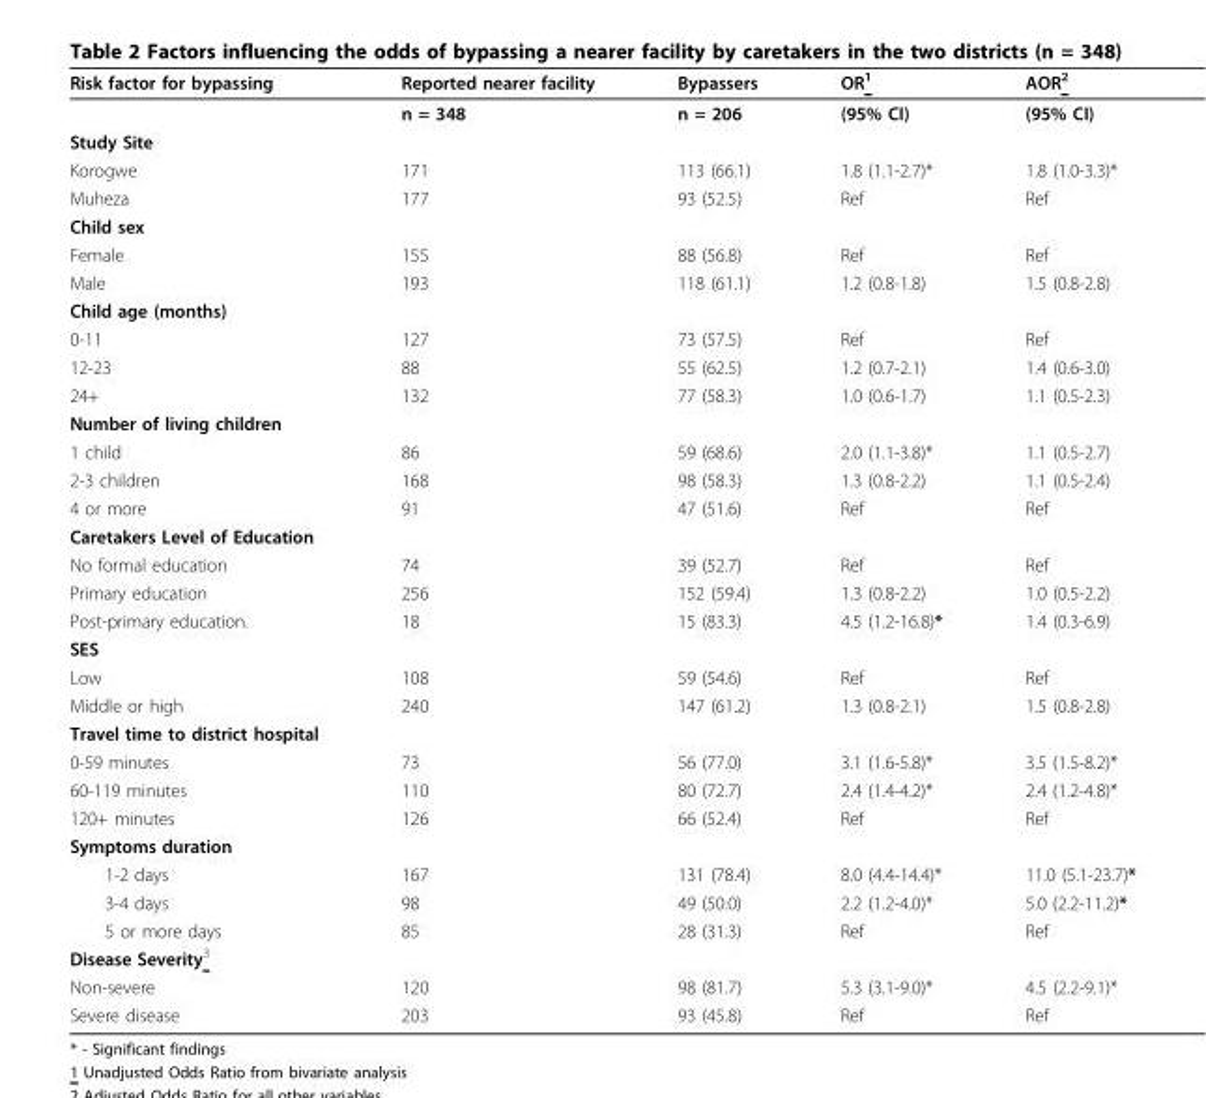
<table><thead><tr><td>Risk factor for bypassing</td><td>Reported nearer facility</td><td>Bypassers</td><td>OR<sup>1</sup></td><td>AOR<sup>2</sup></td></tr></thead><tbody><tr><td></td><td>n = 348</td><td>n = 206</td><td>(95% CI)</td><td>(95% CI)</td></tr><tr><td colspan="5">Study Site</td></tr><tr><td>Korogwe</td><td>171</td><td>113 (66.1)</td><td>1.8 (1.1-2.7)*</td><td>1.8 (1.0-3.3)*</td></tr><tr><td>Muheza</td><td>177</td><td>93 (52.5)</td><td>Ref</td><td>Ref</td></tr><tr><td colspan="5">Child sex</td></tr><tr><td>Female</td><td>155</td><td>88 (56.8)</td><td>Ref</td><td>Ref</td></tr><tr><td>Male</td><td>193</td><td>118 (61.1)</td><td>1.2 (0.8-1.8)</td><td>1.5 (0.8-2.8)</td></tr><tr><td colspan="5">Child age (months)</td></tr><tr><td>0-11</td><td>127</td><td>73 (57.5)</td><td>Ref</td><td>Ref</td></tr><tr><td>12-23</td><td>88</td><td>55 (62.5)</td><td>1.2 (0.7-2.1)</td><td>1.4 (0.6-3.0)</td></tr><tr><td>24+</td><td>132</td><td>77 (58.3)</td><td>1.0 (0.6-1.7)</td><td>1.1 (0.5-2.3)</td></tr><tr><td colspan="5">Number of living children</td></tr><tr><td>1 child</td><td>86</td><td>59 (68.6)</td><td>2.0 (1.1-3.8)*</td><td>1.1 (0.5-2.7)</td></tr><tr><td>2-3 children</td><td>168</td><td>98 (58.3)</td><td>1.3 (0.8-2.2)</td><td>1.1 (0.5-2.4)</td></tr><tr><td>4 or more</td><td>91</td><td>47 (51.6)</td><td>Ref</td><td>Ref</td></tr><tr><td colspan="5">Caretakers Level of Education</td></tr><tr><td>No formal education</td><td>74</td><td>39 (52.7)</td><td>Ref</td><td>Ref</td></tr><tr><td>Primary education</td><td>256</td><td>152 (59.4)</td><td>1.3 (0.8-2.2)</td><td>1.0 (0.5-2.2)</td></tr><tr><td>Post-primary education.</td><td>18</td><td>15 (83.3)</td><td>4.5 (1.2-16.8)*</td><td>1.4 (0.3-6.9)</td></tr><tr><td colspan="5">SES</td></tr><tr><td>Low</td><td>108</td><td>59 (54.6)</td><td>Ref</td><td>Ref</td></tr><tr><td>Middle or high</td><td>240</td><td>147 (61.2)</td><td>1.3 (0.8-2.1)</td><td>1.5 (0.8-2.8)</td></tr><tr><td colspan="5">Travel time to district hospital</td></tr><tr><td>0-59 minutes</td><td>73</td><td>56 (77.0)</td><td>3.1 (1.6-5.8)*</td><td>3.5 (1.5-8.2)*</td></tr><tr><td>60-119 minutes</td><td>110</td><td>80 (72.7)</td><td>2.4 (1.4-4.2)*</td><td>2.4 (1.2-4.8)*</td></tr><tr><td>120+ minutes</td><td>126</td><td>66 (52.4)</td><td>Ref</td><td>Ref</td></tr><tr><td colspan="5">Symptoms duration</td></tr><tr><td>1-2 days</td><td>167</td><td>131 (78.4)</td><td>8.0 (4.4-14.4)*</td><td>11.0 (5.1-23.7)*</td></tr><tr><td>3-4 days</td><td>98</td><td>49 (50.0)</td><td>2.2 (1.2-4.0)*</td><td>5.0 (2.2-11.2)*</td></tr><tr><td>5 or more days</td><td>85</td><td>28 (31.3)</td><td>Ref</td><td>Ref</td></tr><tr><td colspan="5">Disease Severity<sup>3</sup></td></tr><tr><td>Non-severe</td><td>120</td><td>98 (81.7)</td><td>5.3 (3.1-9.0)*</td><td>4.5 (2.2-9.1)*</td></tr><tr><td>Severe disease</td><td>203</td><td>93 (45.8)</td><td>Ref</td><td>Ref</td></tr></tbody></table>